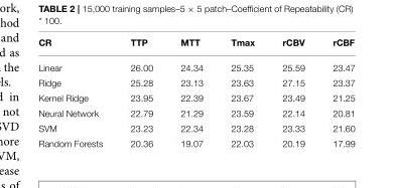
<table><thead><tr><td>CR</td><td>TTP</td><td>MTT</td><td>Tmax</td><td>rCBV</td><td>rCBF</td></tr></thead><tbody><tr><td>Linear</td><td>26.00</td><td>24.34</td><td>25.35</td><td>25.59</td><td>23.47</td></tr><tr><td>Ridge</td><td>25.28</td><td>23.13</td><td>23.63</td><td>27.15</td><td>23.37</td></tr><tr><td>Kernel Ridge</td><td>23.95</td><td>22.39</td><td>23.67</td><td>23.49</td><td>21.25</td></tr><tr><td>Neural Network</td><td>22.79</td><td>21.29</td><td>23.59</td><td>22.14</td><td>20.81</td></tr><tr><td>SVM</td><td>23.23</td><td>22.34</td><td>23.28</td><td>23.33</td><td>21.60</td></tr><tr><td>Random Forests</td><td>20.36</td><td>19.07</td><td>22.03</td><td>20.19</td><td>17.99</td></tr></tbody></table>